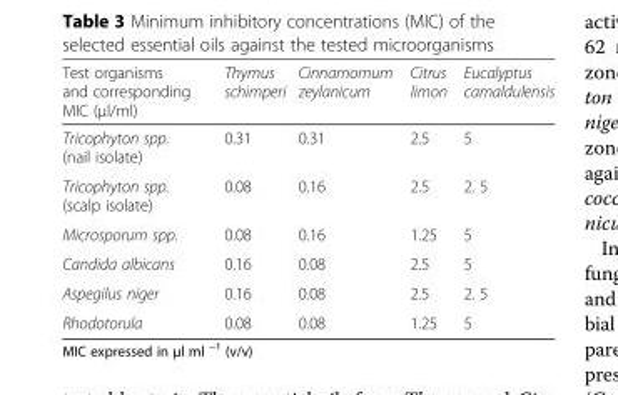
<table><thead><tr><td>Test organisms and corresponding MIC (μl/ml)</td><td>Thymus schimperi</td><td>Cinnamomum zeylanicum</td><td>Citrus limon</td><td>Eucalyptus camaldulensis</td></tr></thead><tbody><tr><td>Tricophyton spp. (nail isolate)</td><td>0.31</td><td>0.31</td><td>2.5</td><td>5</td></tr><tr><td>Tricophyton spp. (scalp isolate)</td><td>0.08</td><td>0.16</td><td>2.5</td><td>2. 5</td></tr><tr><td>Microsporum spp.</td><td>0.08</td><td>0.16</td><td>1.25</td><td>5</td></tr><tr><td>Candida albicans</td><td>0.16</td><td>0.08</td><td>2.5</td><td>5</td></tr><tr><td>Aspegilus niger</td><td>0.16</td><td>0.08</td><td>2.5</td><td>2. 5</td></tr><tr><td>Rhodotorula</td><td>0.08</td><td>0.08</td><td>1.25</td><td>5</td></tr></tbody></table>